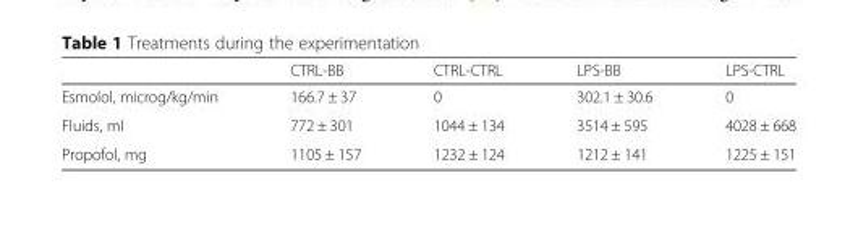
<table><thead><tr><td></td><td>CTRL-BB</td><td>CTRL-CTRL</td><td>LPS-BB</td><td>LPS-CTRL</td></tr></thead><tbody><tr><td>Esmolol, microg/kg/min</td><td>166.7 ± 37</td><td>0</td><td>302.1 ± 30.6</td><td>0</td></tr><tr><td>Fluids, ml</td><td>772 ± 301</td><td>1044 ± 134</td><td>3514 ± 595</td><td>4028 ± 668</td></tr><tr><td>Propofol, mg</td><td>1105 ± 157</td><td>1232 ± 124</td><td>1212 ± 141</td><td>1225 ± 151</td></tr></tbody></table>